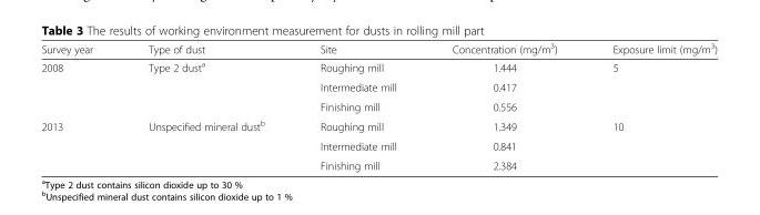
<table><thead><tr><td>Survey year</td><td>Type of dust</td><td>Site</td><td>Concentration (mg/m<sup>3</sup>)</td><td>Exposure limit (mg/m<sup>3</sup>)</td></tr></thead><tbody><tr><td rowspan="3">2008</td><td rowspan="3">Type 2 dust<sup>a</sup></td><td>Roughing mill</td><td>1.444</td><td>5</td></tr><tr><td>Intermediate mill</td><td>0.417</td><td></td></tr><tr><td>Finishing mill</td><td>0.556</td><td></td></tr><tr><td rowspan="3">2013</td><td rowspan="3">Unspecified mineral dust<sup>b</sup></td><td>Roughing mill</td><td>1.349</td><td>10</td></tr><tr><td>Intermediate mill</td><td>0.841</td><td></td></tr><tr><td>Finishing mill</td><td>2.384</td><td></td></tr></tbody></table>